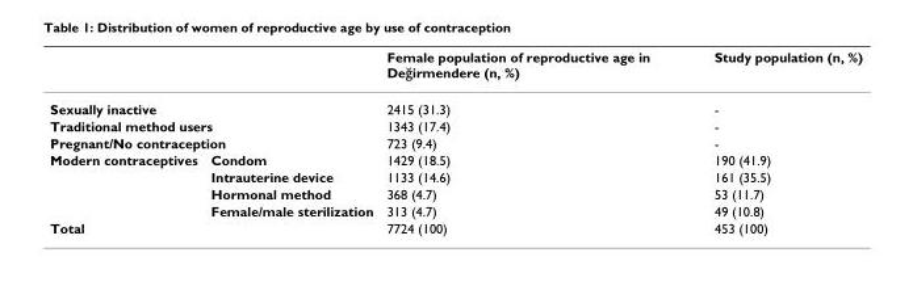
<table><thead><tr><td></td><td></td><td>Female population of reproductive age in Değirmendere (n, %)</td><td>Study population (n, %)</td></tr></thead><tbody><tr><td colspan="2">Sexually inactive</td><td>2415 (31.3)</td><td>-</td></tr><tr><td colspan="2">Traditional method users</td><td>1343 (17.4)</td><td>-</td></tr><tr><td colspan="2">Pregnant/No contraception</td><td>723 (9.4)</td><td>-</td></tr><tr><td rowspan="4">Modern contraceptives</td><td>Condom</td><td>1429 (18.5)</td><td>190 (41.9)</td></tr><tr><td>Intrauterine device</td><td>1133 (14.6)</td><td>161 (35.5)</td></tr><tr><td>Hormonal method</td><td>368 (4.7)</td><td>53 (11.7)</td></tr><tr><td>Female/male sterilization</td><td>313 (4.7)</td><td>49 (10.8)</td></tr><tr><td colspan="2">Total</td><td>7724 (100)</td><td>453 (100)</td></tr></tbody></table>